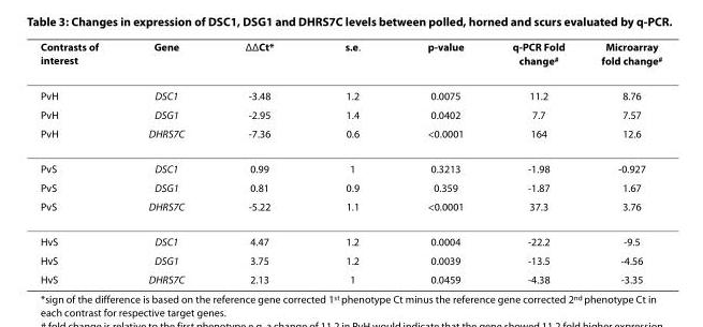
<table><thead><tr><td>Contrasts of interest</td><td>Gene</td><td>ΔΔCt*</td><td>s.e.</td><td>p-value</td><td>q-PCR Fold change#</td><td>Microarray fold change#</td></tr></thead><tbody><tr><td>PvH</td><td>DSC1</td><td>-3.48</td><td>1.2</td><td>0.0075</td><td>11.2</td><td>8.76</td></tr><tr><td>PvH</td><td>DSG1</td><td>-2.95</td><td>1.4</td><td>0.0402</td><td>7.7</td><td>7.57</td></tr><tr><td>PvH</td><td>DHRS7C</td><td>-7.36</td><td>0.6</td><td>&lt;0.0001</td><td>164</td><td>12.6</td></tr><tr><td>PvS</td><td>DSC1</td><td>0.99</td><td>1</td><td>0.3213</td><td>-1.98</td><td>-0.927</td></tr><tr><td>PvS</td><td>DSG1</td><td>0.81</td><td>0.9</td><td>0.359</td><td>-1.87</td><td>1.67</td></tr><tr><td>PvS</td><td>DHRS7C</td><td>-5.22</td><td>1.1</td><td>&lt;0.0001</td><td>37.3</td><td>3.76</td></tr><tr><td>HvS</td><td>DSC1</td><td>4.47</td><td>1.2</td><td>0.0004</td><td>-22.2</td><td>-9.5</td></tr><tr><td>HvS</td><td>DSG1</td><td>3.75</td><td>1.2</td><td>0.0039</td><td>-13.5</td><td>-4.56</td></tr><tr><td>HvS</td><td>DHRS7C</td><td>2.13</td><td>1</td><td>0.0459</td><td>-4.38</td><td>-3.35</td></tr></tbody></table>